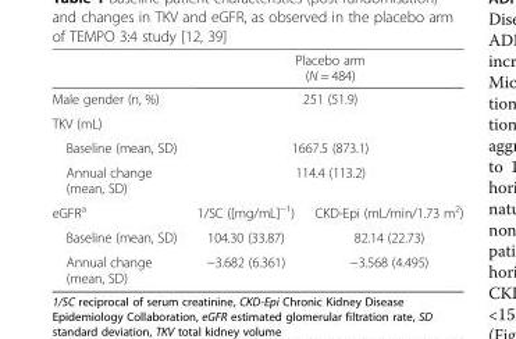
<table><thead><tr><td></td><td colspan="2">Placebo arm (N = 484)</td></tr></thead><tbody><tr><td>Male gender (n, %)</td><td colspan="2">251 (51.9)</td></tr><tr><td colspan="3">TKV (mL)</td></tr><tr><td>Baseline (mean, SD)</td><td colspan="2">1667.5 (873.1)</td></tr><tr><td>Annual change (mean, SD)</td><td colspan="2">114.4 (113.2)</td></tr><tr><td>eGFR<sup>a</sup></td><td>1/SC ([mg/mL]<sup>−1</sup>)</td><td>CKD-Epi (mL/min/1.73 m<sup>2</sup>)</td></tr><tr><td>Baseline (mean, SD)</td><td>104.30 (33.87)</td><td>82.14 (22.73)</td></tr><tr><td>Annual change (mean, SD)</td><td>−3.682 (6.361)</td><td>−3.568 (4.495)</td></tr></tbody></table>